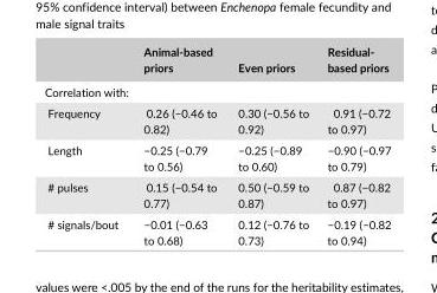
<table><thead><tr><td></td><td>Animal- based priors</td><td>Even priors</td><td>Residual- based priors</td></tr></thead><tbody><tr><td colspan="4">Correlation with:</td></tr><tr><td>Frequency</td><td>0.26 (−0.46 to 0.82)</td><td>0.30 (−0.56 to 0.92)</td><td>0.91 (−0.72 to 0.97)</td></tr><tr><td>Length</td><td>−0.25 (−0.79 to 0.56)</td><td>−0.25 (−0.89 to 0.60)</td><td>−0.90 (−0.97 to 0.79)</td></tr><tr><td># pulses</td><td>0.15 (−0.54 to 0.77)</td><td>0.50 (−0.59 to 0.87)</td><td>0.87 (−0.82 to 0.97)</td></tr><tr><td># signals/bout</td><td>−0.01 (−0.63 to 0.68)</td><td>0.12 (−0.76 to 0.73)</td><td>−0.19 (−0.82 to 0.94)</td></tr></tbody></table>